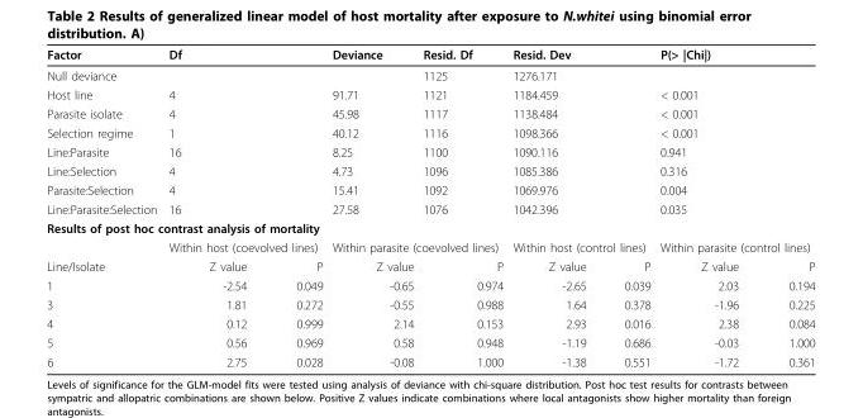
<table><thead><tr><td rowspan="2">Factor Null deviance</td><td colspan="2">Df</td><td rowspan="2">Deviance</td><td rowspan="2">Resid. Df 1125</td><td colspan="2">Resid. Dev</td><td colspan="2">P(&gt; |Chi|)</td></tr><tr><td></td><td></td><td>1276.171</td><td></td><td></td><td></td></tr></thead><tbody><tr><td>Host line</td><td colspan="2">4</td><td>91.71</td><td>1121</td><td colspan="2">1184.459</td><td colspan="2">&lt; 0.001</td></tr><tr><td>Parasite isolate</td><td colspan="2">4</td><td>45.98</td><td>1117</td><td colspan="2">1138.484</td><td colspan="2">&lt; 0.001</td></tr><tr><td>Selection regime</td><td colspan="2">1</td><td>40.12</td><td>1116</td><td colspan="2">1098.366</td><td colspan="2">&lt; 0.001</td></tr><tr><td>Line:Parasite</td><td colspan="2">16</td><td>8.25</td><td>1100</td><td colspan="2">1090.116</td><td colspan="2">0.941</td></tr><tr><td>Line:Selection</td><td colspan="2">4</td><td>4.73</td><td>1096</td><td colspan="2">1085.386</td><td colspan="2">0.316</td></tr><tr><td>Parasite:Selection</td><td colspan="2">4</td><td>15.41</td><td>1092</td><td colspan="2">1069.976</td><td colspan="2">0.004</td></tr><tr><td>Line:Parasite:Selection</td><td colspan="2">16</td><td>27.58</td><td>1076</td><td colspan="2">1042.396</td><td colspan="2">0.035</td></tr><tr><td colspan="9">Results of post hoc contrast analysis of mortality</td></tr><tr><td></td><td colspan="2">Within host (coevolved lines)</td><td colspan="2">Within parasite (coevolved lines)</td><td colspan="2">Within host (control lines)</td><td colspan="2">Within parasite (control lines)</td></tr><tr><td>Line/Isolate</td><td>Z value</td><td>P</td><td>Z value</td><td>P</td><td>Z value</td><td>P</td><td>Z value</td><td>P</td></tr><tr><td>1</td><td>-2.54</td><td>0.049</td><td>-0.65</td><td>0.974</td><td>-2.65</td><td>0.039</td><td>2.03</td><td>0.194</td></tr><tr><td>3</td><td>1.81</td><td>0.272</td><td>-0.55</td><td>0.988</td><td>1.64</td><td>0.378</td><td>-1.96</td><td>0.225</td></tr><tr><td>4</td><td>0.12</td><td>0.999</td><td>2.14</td><td>0.153</td><td>2.93</td><td>0.016</td><td>2.38</td><td>0.084</td></tr><tr><td>5</td><td>0.56</td><td>0.969</td><td>0.58</td><td>0.948</td><td>-1.19</td><td>0.686</td><td>-0.03</td><td>1.000</td></tr><tr><td>6</td><td>2.75</td><td>0.028</td><td>-0.08</td><td>1.000</td><td>-1.38</td><td>0.551</td><td>-1.72</td><td>0.361</td></tr></tbody></table>